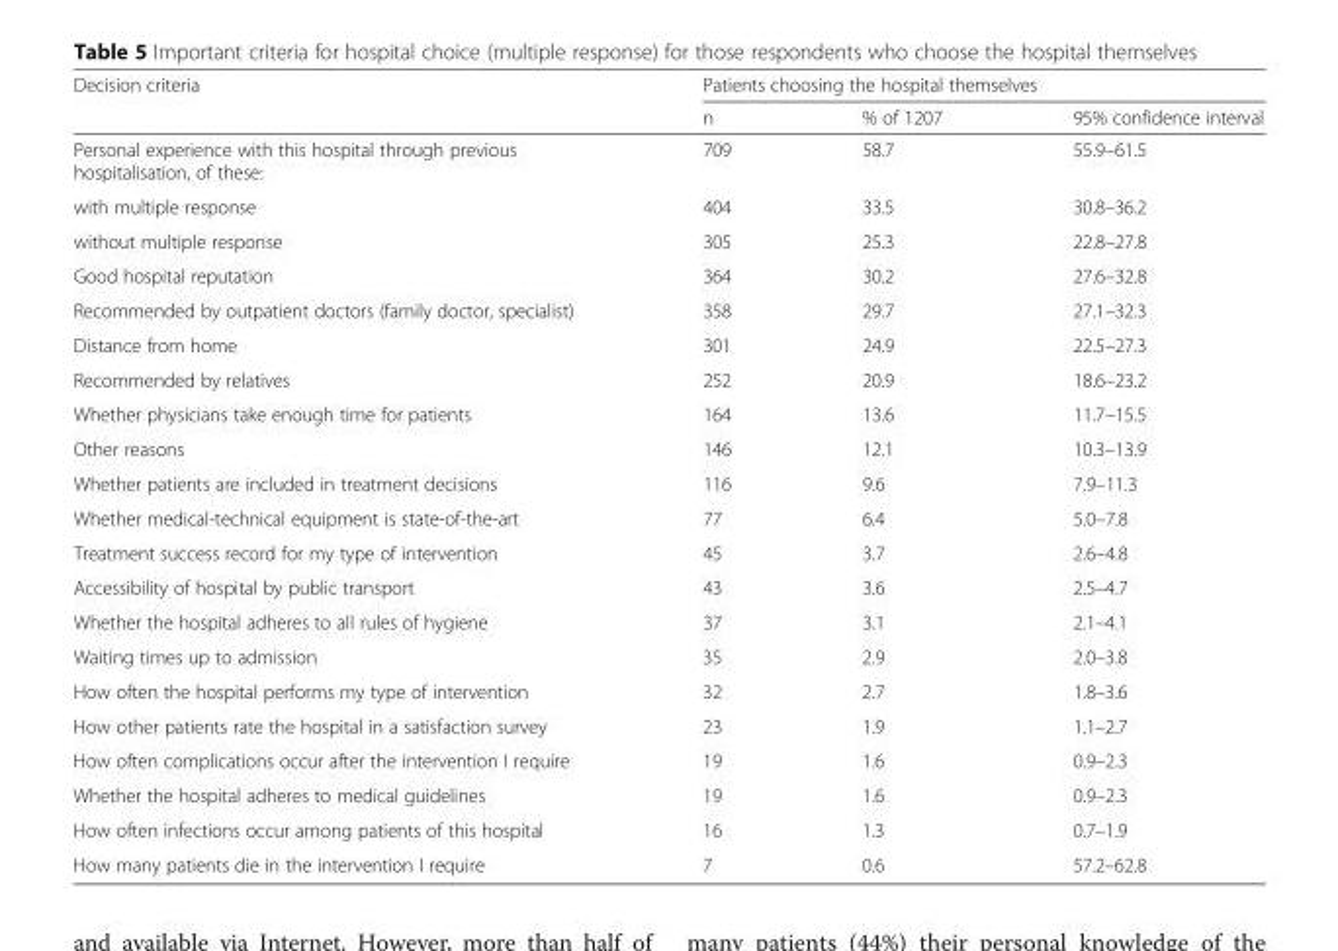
<table><thead><tr><td rowspan="2">Decision criteria</td><td colspan="3">Patients choosing the hospital themselves</td></tr><tr><td>n</td><td>% of 1207</td><td>95% confidence interval</td></tr></thead><tbody><tr><td>Personal experience with this hospital through previous hospitalisation, of these:</td><td>709</td><td>58.7</td><td>55.9–61.5</td></tr><tr><td>with multiple response</td><td>404</td><td>33.5</td><td>30.8–36.2</td></tr><tr><td>without multiple response</td><td>305</td><td>25.3</td><td>22.8–27.8</td></tr><tr><td>Good hospital reputation</td><td>364</td><td>30.2</td><td>27.6–32.8</td></tr><tr><td>Recommended by outpatient doctors (family doctor, specialist)</td><td>358</td><td>29.7</td><td>27.1–32.3</td></tr><tr><td>Distance from home</td><td>301</td><td>24.9</td><td>22.5–27.3</td></tr><tr><td>Recommended by relatives</td><td>252</td><td>20.9</td><td>18.6–23.2</td></tr><tr><td>Whether physicians take enough time for patients</td><td>164</td><td>13.6</td><td>11.7–15.5</td></tr><tr><td>Other reasons</td><td>146</td><td>12.1</td><td>10.3–13.9</td></tr><tr><td>Whether patients are included in treatment decisions</td><td>116</td><td>9.6</td><td>7.9–11.3</td></tr><tr><td>Whether medical-technical equipment is state-of-the-art</td><td>77</td><td>6.4</td><td>5.0–7.8</td></tr><tr><td>Treatment success record for my type of intervention</td><td>45</td><td>3.7</td><td>2.6–4.8</td></tr><tr><td>Accessibility of hospital by public transport</td><td>43</td><td>3.6</td><td>2.5–4.7</td></tr><tr><td>Whether the hospital adheres to all rules of hygiene</td><td>37</td><td>3.1</td><td>2.1–4.1</td></tr><tr><td>Waiting times up to admission</td><td>35</td><td>2.9</td><td>2.0–3.8</td></tr><tr><td>How often the hospital performs my type of intervention</td><td>32</td><td>2.7</td><td>1.8–3.6</td></tr><tr><td>How other patients rate the hospital in a satisfaction survey</td><td>23</td><td>1.9</td><td>1.1–2.7</td></tr><tr><td>How often complications occur after the intervention I require</td><td>19</td><td>1.6</td><td>0.9–2.3</td></tr><tr><td>Whether the hospital adheres to medical guidelines</td><td>19</td><td>1.6</td><td>0.9–2.3</td></tr><tr><td>How often infections occur among patients of this hospital</td><td>16</td><td>1.3</td><td>0.7–1.9</td></tr><tr><td>How many patients die in the intervention I require</td><td>7</td><td>0.6</td><td>57.2–62.8</td></tr></tbody></table>